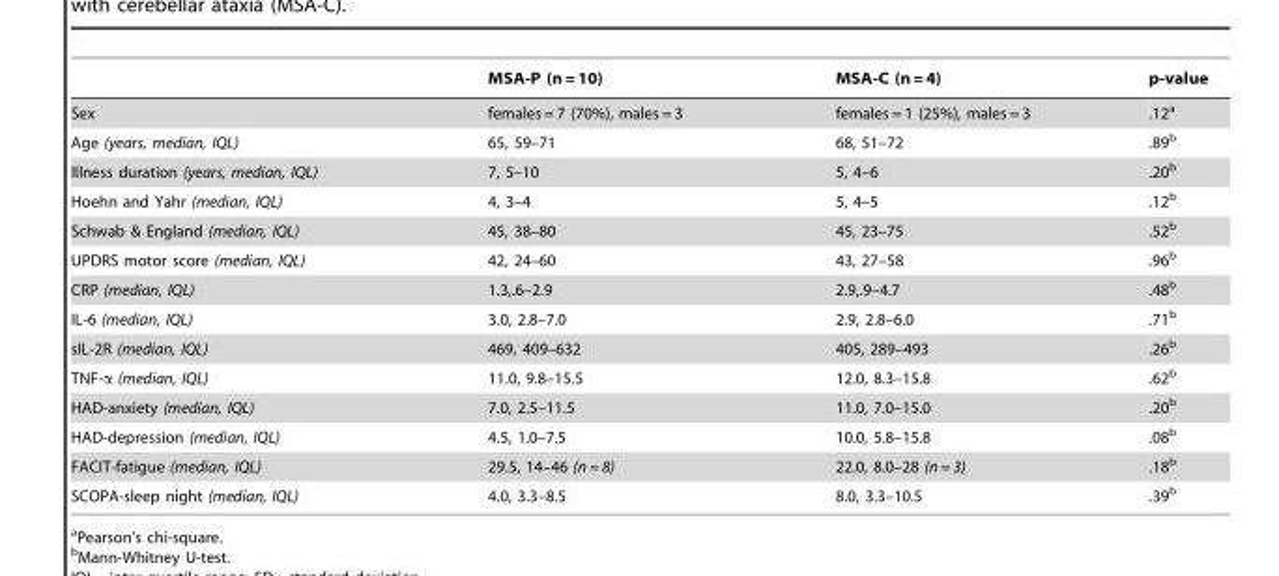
<table><thead><tr><td></td><td>MSA-P (n = 10)</td><td>MSA-C (n = 4)</td><td>p-value</td></tr></thead><tbody><tr><td>Sex</td><td>females = 7 (70%), males = 3</td><td>females = 1 (25%), males = 3</td><td>.12<sup>a</sup></td></tr><tr><td>Age (years, median, IQL)</td><td>65, 59–71</td><td>68, 51–72</td><td>.89<sup>b</sup></td></tr><tr><td>Illness duration (years, median, IQL)</td><td>7, 5–10</td><td>5, 4–6</td><td>.20<sup>b</sup></td></tr><tr><td>Hoehn and Yahr (median, IQL)</td><td>4, 3–4</td><td>5, 4–5</td><td>.12<sup>b</sup></td></tr><tr><td>Schwab &amp; England (median, IQL)</td><td>45, 38–80</td><td>45, 23–75</td><td>.52<sup>b</sup></td></tr><tr><td>UPDRS motor score (median, IQL)</td><td>42, 24–60</td><td>43, 27–58</td><td>.96<sup>b</sup></td></tr><tr><td>CRP (median, IQL)</td><td>1.3,.6–2.9</td><td>2.9,.9–4.7</td><td>.48<sup>b</sup></td></tr><tr><td>IL-6 (median, IQL)</td><td>3.0, 2.8–7.0</td><td>2.9, 2.8–6.0</td><td>.71<sup>b</sup></td></tr><tr><td>sIL-2R (median, IQL)</td><td>469, 409–632</td><td>405, 289–493</td><td>.26<sup>b</sup></td></tr><tr><td>TNF-α (median, IQL)</td><td>11.0, 9.8–15.5</td><td>12.0, 8.3–15.8</td><td>.62<sup>b</sup></td></tr><tr><td>HAD-anxiety (median, IQL)</td><td>7.0, 2.5–11.5</td><td>11.0, 7.0–15.0</td><td>.20<sup>b</sup></td></tr><tr><td>HAD-depression (median, IQL)</td><td>4.5, 1.0–7.5</td><td>10.0, 5.8–15.8</td><td>.08<sup>b</sup></td></tr><tr><td>FACIT-fatigue (median, IQL)</td><td>29.5, 14–46 (n = 8)</td><td>22.0, 8.0–28 (n = 3)</td><td>.18<sup>b</sup></td></tr><tr><td>SCOPA-sleep night (median, IQL)</td><td>4.0, 3.3–8.5</td><td>8.0, 3.3–10.5</td><td>.39<sup>b</sup></td></tr></tbody></table>